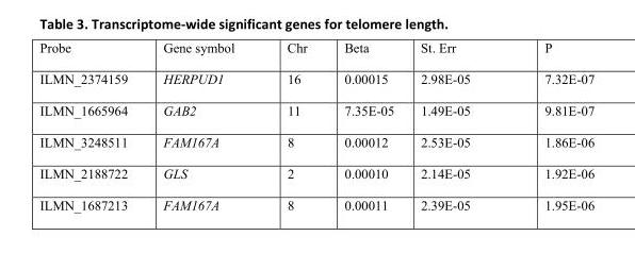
<table><thead><tr><td>Probe</td><td>Gene symbol</td><td>Chr</td><td>Beta</td><td>St. Err</td><td>P</td></tr></thead><tbody><tr><td>ILMN_2374159</td><td>HERPUD1</td><td>16</td><td>0.00015</td><td>2.98E-05</td><td>7.32E-07</td></tr><tr><td>ILMN_1665964</td><td>GAB2</td><td>11</td><td>7.35E-05</td><td>1.49E-05</td><td>9.81E-07</td></tr><tr><td>ILMN_3248511</td><td>FAM167A</td><td>8</td><td>0.00012</td><td>2.53E-05</td><td>1.86E-06</td></tr><tr><td>ILMN_2188722</td><td>GLS</td><td>2</td><td>0.00010</td><td>2.14E-05</td><td>1.92E-06</td></tr><tr><td>ILMN_1687213</td><td>FAM167A</td><td>8</td><td>0.00011</td><td>2.39E-05</td><td>1.95E-06</td></tr></tbody></table>